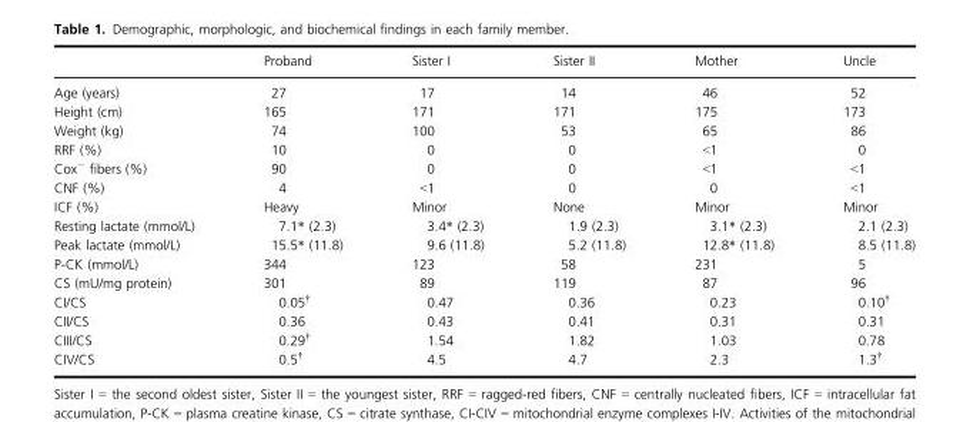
<table><thead><tr><td></td><td>Proband</td><td>Sister I</td><td>Sister II</td><td>Mother</td><td>Uncle</td></tr></thead><tbody><tr><td>Age (years)</td><td>27</td><td>17</td><td>14</td><td>46</td><td>52</td></tr><tr><td>Height (cm)</td><td>165</td><td>171</td><td>171</td><td>175</td><td>173</td></tr><tr><td>Weight (kg)</td><td>74</td><td>100</td><td>53</td><td>65</td><td>86</td></tr><tr><td>RRF (%)</td><td>10</td><td>0</td><td>0</td><td>&lt;1</td><td>0</td></tr><tr><td>Cox<sup>−</sup> fibers (%)</td><td>90</td><td>0</td><td>0</td><td>&lt;1</td><td>&lt;1</td></tr><tr><td>CNF (%)</td><td>4</td><td>&lt;1</td><td>0</td><td>0</td><td>&lt;1</td></tr><tr><td>ICF (%)</td><td>Heavy</td><td>Minor</td><td>None</td><td>Minor</td><td>Minor</td></tr><tr><td>Resting lactate (mmol/L)</td><td>7.1* (2.3)</td><td>3.4* (2.3)</td><td>1.9 (2.3)</td><td>3.1* (2.3)</td><td>2.1 (2.3)</td></tr><tr><td>Peak lactate (mmol/L)</td><td>15.5* (11.8)</td><td>9.6 (11.8)</td><td>5.2 (11.8)</td><td>12.8* (11.8)</td><td>8.5 (11.8)</td></tr><tr><td>P-CK (mmol/L)</td><td>344</td><td>123</td><td>58</td><td>231</td><td>5</td></tr><tr><td>CS (mU/mg protein)</td><td>301</td><td>89</td><td>119</td><td>87</td><td>96</td></tr><tr><td>CI/CS</td><td>0.05†</td><td>0.47</td><td>0.36</td><td>0.23</td><td>0.10†</td></tr><tr><td>CII/CS</td><td>0.36</td><td>0.43</td><td>0.41</td><td>0.31</td><td>0.31</td></tr><tr><td>CIII/CS</td><td>0.29†</td><td>1.54</td><td>1.82</td><td>1.03</td><td>0.78</td></tr><tr><td>CIV/CS</td><td>0.5†</td><td>4.5</td><td>4.7</td><td>2.3</td><td>1.3†</td></tr></tbody></table>